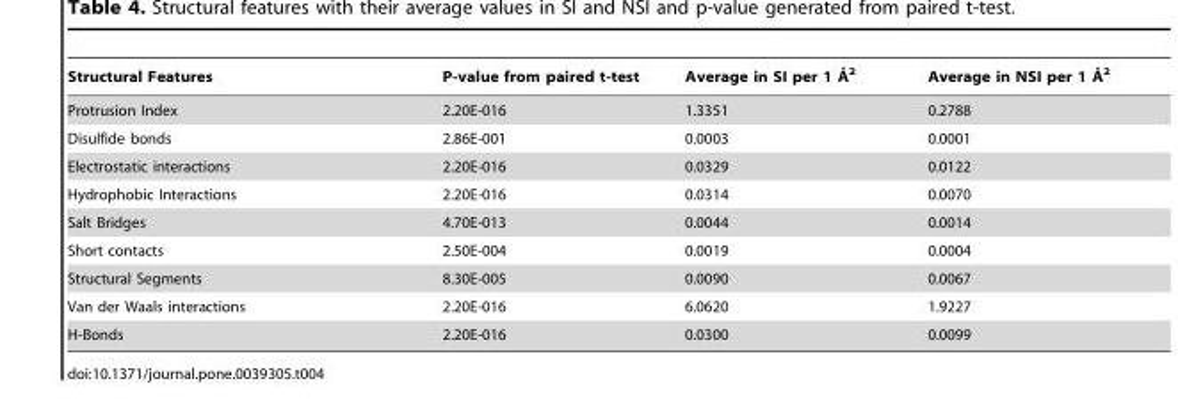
<table><thead><tr><td>Structural Features</td><td>P-value from paired t-test</td><td>Average in SI per 1 A˚ 2</td><td>Average in NSI per 1 A˚ 2</td></tr></thead><tbody><tr><td>Protrusion Index</td><td>2.20E-016</td><td>1.3351</td><td>0.2788</td></tr><tr><td>Disulfide bonds</td><td>2.86E-001</td><td>0.0003</td><td>0.0001</td></tr><tr><td>Electrostatic interactions</td><td>2.20E-016</td><td>0.0329</td><td>0.0122</td></tr><tr><td>Hydrophobic Interactions</td><td>2.20E-016</td><td>0.0314</td><td>0.0070</td></tr><tr><td>Salt Bridges</td><td>4.70E-013</td><td>0.0044</td><td>0.0014</td></tr><tr><td>Short contacts</td><td>2.50E-004</td><td>0.0019</td><td>0.0004</td></tr><tr><td>Structural Segments</td><td>8.30E-005</td><td>0.0090</td><td>0.0067</td></tr><tr><td>Van der Waals interactions</td><td>2.20E-016</td><td>6.0620</td><td>1.9227</td></tr><tr><td>H-Bonds</td><td>2.20E-016</td><td>0.0300</td><td>0.0099</td></tr></tbody></table>